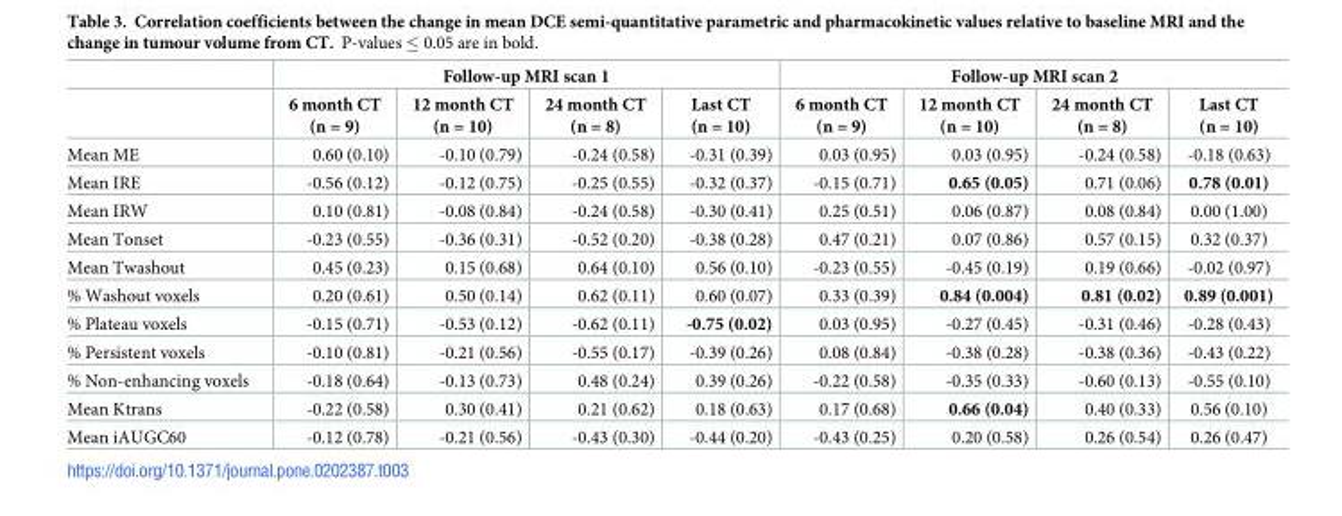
<table><thead><tr><td rowspan="2"></td><td colspan="4">Follow-up MRI scan 1</td><td colspan="4">Follow-up MRI scan 2</td></tr><tr><td>6 month CT (n = 9)</td><td>12 month CT (n = 10)</td><td>24 month CT (n = 8)</td><td>Last CT (n = 10)</td><td>6 month CT (n = 9)</td><td>12 month CT (n = 10)</td><td>24 month CT (n = 8)</td><td>Last CT (n = 10)</td></tr></thead><tbody><tr><td>Mean ME</td><td>0.60 (0.10)</td><td>-0.10 (0.79)</td><td>-0.24 (0.58)</td><td>-0.31 (0.39)</td><td>0.03 (0.95)</td><td>0.03 (0.95)</td><td>-0.24 (0.58)</td><td>-0.18 (0.63)</td></tr><tr><td>Mean IRE</td><td>-0.56 (0.12)</td><td>-0.12 (0.75)</td><td>-0.25 (0.55)</td><td>-0.32 (0.37)</td><td>-0.15 (0.71)</td><td>0.65 (0.05)</td><td>0.71 (0.06)</td><td>0.78 (0.01)</td></tr><tr><td>Mean IRW</td><td>0.10 (0.81)</td><td>-0.08 (0.84)</td><td>-0.24 (0.58)</td><td>-0.30 (0.41)</td><td>0.25 (0.51)</td><td>0.06 (0.87)</td><td>0.08 (0.84)</td><td>0.00 (1.00)</td></tr><tr><td>Mean Tonset</td><td>-0.23 (0.55)</td><td>-0.36 (0.31)</td><td>-0.52 (0.20)</td><td>-0.38 (0.28)</td><td>0.47 (0.21)</td><td>0.07 (0.86)</td><td>0.57 (0.15)</td><td>0.32 (0.37)</td></tr><tr><td>Mean Twashout</td><td>0.45 (0.23)</td><td>0.15 (0.68)</td><td>0.64 (0.10)</td><td>0.56 (0.10)</td><td>-0.23 (0.55)</td><td>-0.45 (0.19)</td><td>0.19 (0.66)</td><td>-0.02 (0.97)</td></tr><tr><td>% Washout voxels</td><td>0.20 (0.61)</td><td>0.50 (0.14)</td><td>0.62 (0.11)</td><td>0.60 (0.07)</td><td>0.33 (0.39)</td><td>0.84 (0.004)</td><td>0.81 (0.02)</td><td>0.89 (0.001)</td></tr><tr><td>% Plateau voxels</td><td>-0.15 (0.71)</td><td>-0.53 (0.12)</td><td>-0.62 (0.11)</td><td>-0.75 (0.02)</td><td>0.03 (0.95)</td><td>-0.27 (0.45)</td><td>-0.31 (0.46)</td><td>-0.28 (0.43)</td></tr><tr><td>% Persistent voxels</td><td>-0.10 (0.81)</td><td>-0.21 (0.56)</td><td>-0.55 (0.17)</td><td>-0.39 (0.26)</td><td>0.08 (0.84)</td><td>-0.38 (0.28)</td><td>-0.38 (0.36)</td><td>-0.43 (0.22)</td></tr><tr><td>% Non-enhancing voxels</td><td>-0.18 (0.64)</td><td>-0.13 (0.73)</td><td>0.48 (0.24)</td><td>0.39 (0.26)</td><td>-0.22 (0.58)</td><td>-0.35 (0.33)</td><td>-0.60 (0.13)</td><td>-0.55 (0.10)</td></tr><tr><td>Mean Ktrans</td><td>-0.22 (0.58)</td><td>0.30 (0.41)</td><td>0.21 (0.62)</td><td>0.18 (0.63)</td><td>0.17 (0.68)</td><td>0.66 (0.04)</td><td>0.40 (0.33)</td><td>0.56 (0.10)</td></tr><tr><td>Mean iAUGC60</td><td>-0.12 (0.78)</td><td>-0.21 (0.56)</td><td>-0.43 (0.30)</td><td>-0.44 (0.20)</td><td>-0.43 (0.25)</td><td>0.20 (0.58)</td><td>0.26 (0.54)</td><td>0.26 (0.47)</td></tr></tbody></table>